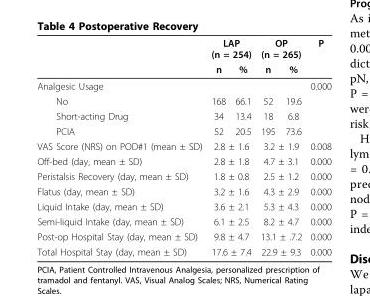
<table><thead><tr><td rowspan="2"></td><td colspan="2">LAP (n = 254)</td><td colspan="2">OP (n = 265)</td><td rowspan="2">P</td></tr><tr><td>n</td><td>%</td><td>n</td><td>%</td></tr></thead><tbody><tr><td>Analgesic Usage</td><td></td><td></td><td></td><td></td><td>0.000</td></tr><tr><td>No</td><td>168</td><td>66.1</td><td>52</td><td>19.6</td><td></td></tr><tr><td>Short-acting Drug</td><td>34</td><td>13.4</td><td>18</td><td>6.8</td><td></td></tr><tr><td>PCIA</td><td>52</td><td>20.5</td><td>195</td><td>73.6</td><td></td></tr><tr><td>VAS Score (NRS) on POD#1 (mean ± SD)</td><td colspan="2">2.8 ± 1.6</td><td colspan="2">3.2 ± 1.9</td><td>0.008</td></tr><tr><td>Off-bed (day, mean ± SD)</td><td colspan="2">2.8 ± 1.8</td><td colspan="2">4.7 ± 3.1</td><td>0.000</td></tr><tr><td>Peristalsis Recovery (day, mean ± SD)</td><td colspan="2">1.8 ± 0.8</td><td colspan="2">2.5 ± 1.2</td><td>0.000</td></tr><tr><td>Flatus (day, mean ± SD)</td><td colspan="2">3.2 ± 1.6</td><td colspan="2">4.3 ± 2.9</td><td>0.000</td></tr><tr><td>Liquid Intake (day, mean ± SD)</td><td colspan="2">3.6 ± 2.1</td><td colspan="2">5.3 ± 4.3</td><td>0.000</td></tr><tr><td>Semi-liquid Intake (day, mean ± SD)</td><td colspan="2">6.1 ± 2.5</td><td colspan="2">8.2 ± 4.7</td><td>0.000</td></tr><tr><td>Post-op Hospital Stay (day, mean ± SD)</td><td colspan="2">9.8 ± 4.7</td><td colspan="2">13.1 ± .7.2</td><td>0.000</td></tr><tr><td>Total Hospital Stay (day, mean ± SD)</td><td colspan="2">17.6 ± 7.4</td><td colspan="2">22.9 ± 9.3</td><td>0.000</td></tr></tbody></table>